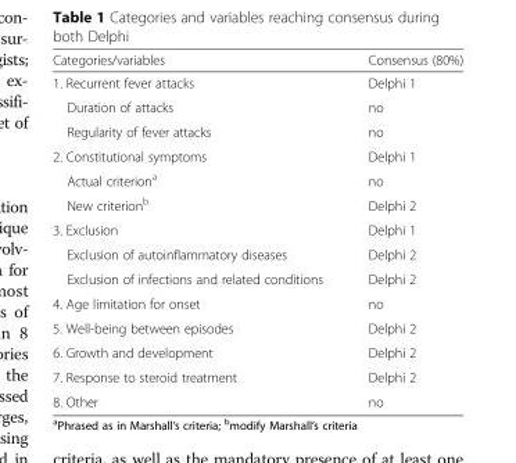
<table><thead><tr><td>Categories/variables</td><td>Consensus (80%)</td></tr></thead><tbody><tr><td>1. Recurrent fever attacks</td><td>Delphi 1</td></tr><tr><td>Duration of attacks</td><td>no</td></tr><tr><td>Regularity of fever attacks</td><td>no</td></tr><tr><td>2. Constitutional symptoms</td><td>Delphi 1</td></tr><tr><td>Actual criterion<sup>a</sup></td><td>no</td></tr><tr><td>New criterion<sup>b</sup></td><td>Delphi 2</td></tr><tr><td>3. Exclusion</td><td>Delphi 1</td></tr><tr><td>Exclusion of autoinflammatory diseases</td><td>Delphi 2</td></tr><tr><td>Exclusion of infections and related conditions</td><td>Delphi 2</td></tr><tr><td>4. Age limitation for onset</td><td>no</td></tr><tr><td>5. Well-being between episodes</td><td>Delphi 2</td></tr><tr><td>6. Growth and development</td><td>Delphi 2</td></tr><tr><td>7. Response to steroid treatment</td><td>Delphi 2</td></tr><tr><td>8. Other</td><td>no</td></tr></tbody></table>